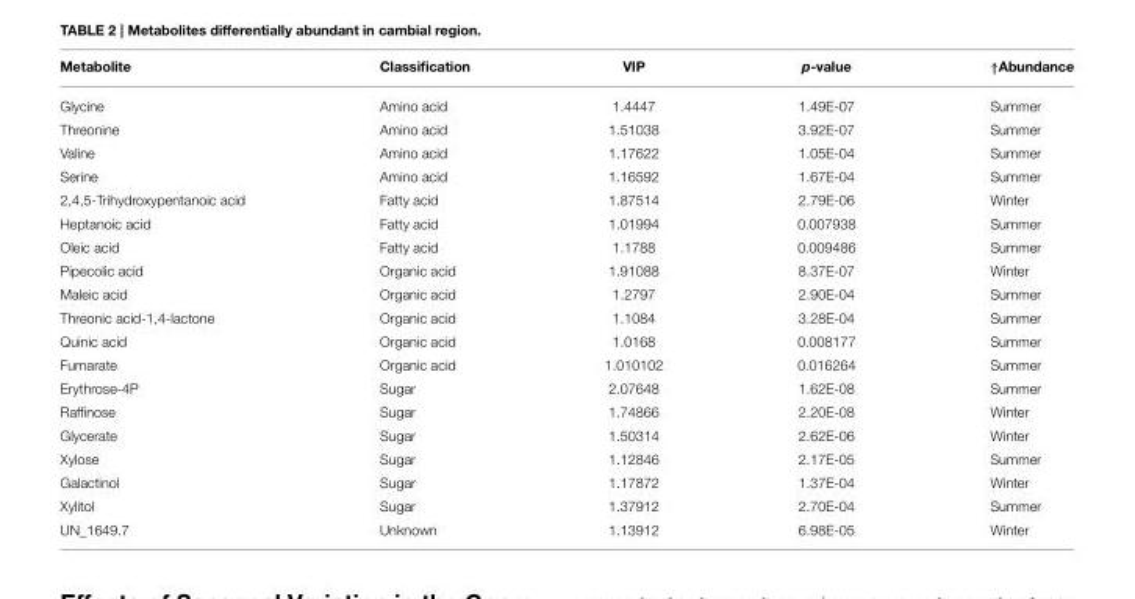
<table><thead><tr><td>Metabolite</td><td>Classification</td><td>VIP</td><td>p-value</td><td>↑Abundance</td></tr></thead><tbody><tr><td>Glycine</td><td>Amino acid</td><td>1.4447</td><td>1.49E-07</td><td>Summer</td></tr><tr><td>Threonine</td><td>Amino acid</td><td>1.51038</td><td>3.92E-07</td><td>Summer</td></tr><tr><td>Valine</td><td>Amino acid</td><td>1.17622</td><td>1.05E-04</td><td>Summer</td></tr><tr><td>Serine</td><td>Amino acid</td><td>1.16592</td><td>1.67E-04</td><td>Summer</td></tr><tr><td>2,4,5-Trihydroxypentanoic acid</td><td>Fatty acid</td><td>1.87514</td><td>2.79E-06</td><td>Winter</td></tr><tr><td>Heptanoic acid</td><td>Fatty acid</td><td>1.01994</td><td>0.007938</td><td>Summer</td></tr><tr><td>Oleic acid</td><td>Fatty acid</td><td>1.1788</td><td>0.009486</td><td>Summer</td></tr><tr><td>Pipecolic acid</td><td>Organic acid</td><td>1.91088</td><td>8.37E-07</td><td>Winter</td></tr><tr><td>Maleic acid</td><td>Organic acid</td><td>1.2797</td><td>2.90E-04</td><td>Summer</td></tr><tr><td>Threonic acid-1,4-lactone</td><td>Organic acid</td><td>1.1084</td><td>3.28E-04</td><td>Summer</td></tr><tr><td>Quinic acid</td><td>Organic acid</td><td>1.0168</td><td>0.008177</td><td>Summer</td></tr><tr><td>Fumarate</td><td>Organic acid</td><td>1.010102</td><td>0.016264</td><td>Summer</td></tr><tr><td>Erythrose-4P</td><td>Sugar</td><td>2.07648</td><td>1.62E-08</td><td>Summer</td></tr><tr><td>Raffinose</td><td>Sugar</td><td>1.74866</td><td>2.20E-08</td><td>Winter</td></tr><tr><td>Glycerate</td><td>Sugar</td><td>1.50314</td><td>2.62E-06</td><td>Winter</td></tr><tr><td>Xylose</td><td>Sugar</td><td>1.12846</td><td>2.17E-05</td><td>Summer</td></tr><tr><td>Galactinol</td><td>Sugar</td><td>1.17872</td><td>1.37E-04</td><td>Winter</td></tr><tr><td>Xylitol</td><td>Sugar</td><td>1.37912</td><td>2.70E-04</td><td>Summer</td></tr><tr><td>UN_1649.7</td><td>Unknown</td><td>1.13912</td><td>6.98E-05</td><td>Winter</td></tr></tbody></table>